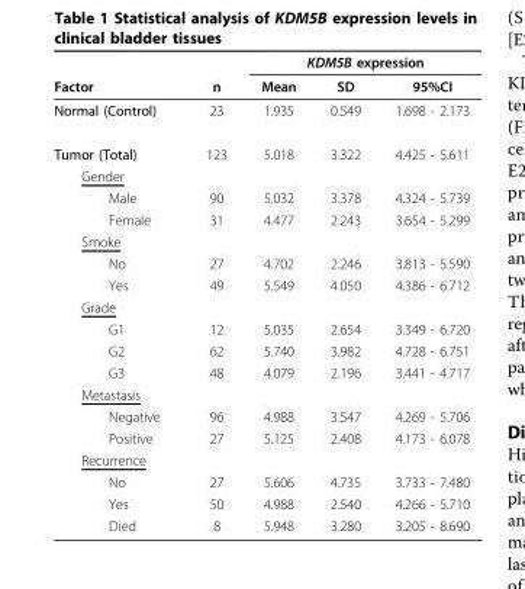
<table><thead><tr><td rowspan="2">Factor</td><td rowspan="2">n</td><td colspan="3">KDM5B expression</td></tr><tr><td>Mean</td><td>SD</td><td>95%CI</td></tr></thead><tbody><tr><td>Normal (Control)</td><td>23</td><td>1.935</td><td>0.549</td><td>1.698 - 2.173</td></tr><tr><td>Tumor (Total)</td><td>123</td><td>5.018</td><td>3.322</td><td>4.425 - 5.611</td></tr><tr><td colspan="5">Gender</td></tr><tr><td>Male</td><td>90</td><td>5.032</td><td>3.378</td><td>4.324 - 5.739</td></tr><tr><td>Female</td><td>31</td><td>4.477</td><td>2.243</td><td>3.654 - 5.299</td></tr><tr><td colspan="5">Smoke</td></tr><tr><td>No</td><td>27</td><td>4.702</td><td>2.246</td><td>3.813 - 5.590</td></tr><tr><td>Yes</td><td>49</td><td>5.549</td><td>4.050</td><td>4.386 - 6.712</td></tr><tr><td colspan="5">Grade</td></tr><tr><td>G1</td><td>12</td><td>5.035</td><td>2.654</td><td>3.349 - 6.720</td></tr><tr><td>G2</td><td>62</td><td>5.740</td><td>3.982</td><td>4.728 - 6.751</td></tr><tr><td>G3</td><td>48</td><td>4.079</td><td>2.196</td><td>3.441 - 4.717</td></tr><tr><td colspan="5">Metastasis</td></tr><tr><td>Negative</td><td>96</td><td>4.988</td><td>3.547</td><td>4.269 - 5.706</td></tr><tr><td>Positive</td><td>27</td><td>5.125</td><td>2.408</td><td>4.173 - 6.078</td></tr><tr><td colspan="5">Recurrence</td></tr><tr><td>No</td><td>27</td><td>5.606</td><td>4.735</td><td>3.733 - 7.480</td></tr><tr><td>Yes</td><td>50</td><td>4.988</td><td>2.540</td><td>4.266 - 5.710</td></tr><tr><td>Died</td><td>8</td><td>5.948</td><td>3.280</td><td>3.205 - 8.690</td></tr></tbody></table>